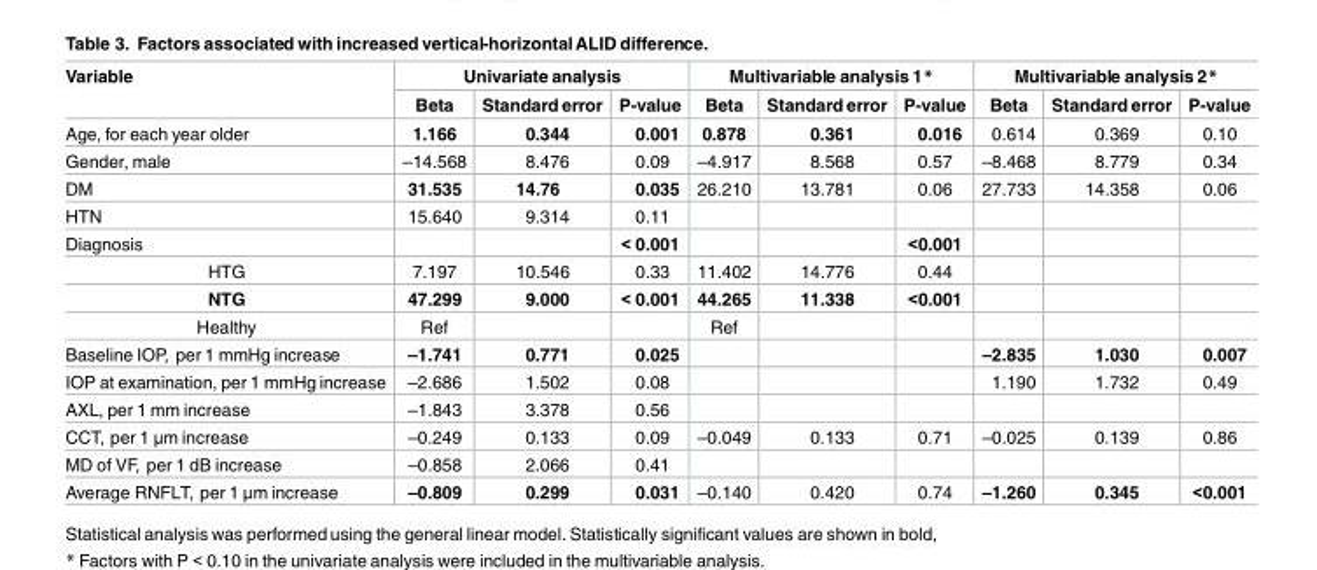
<table><thead><tr><td rowspan="2">Variable</td><td colspan="3">Univariate analysis</td><td colspan="3">Multivariable analysis 1*</td><td colspan="3">Multivariable analysis 2*</td></tr><tr><td>Beta</td><td>Standard error</td><td>P-value</td><td>Beta</td><td>Standard error</td><td>P-value</td><td>Beta</td><td>Standard error</td><td>P-value</td></tr></thead><tbody><tr><td>Age, for each year older</td><td>1.166</td><td>0.344</td><td>0.001</td><td>0.878</td><td>0.361</td><td>0.016</td><td>0.614</td><td>0.369</td><td>0.10</td></tr><tr><td>Gender, male</td><td>–14.568</td><td>8.476</td><td>0.09</td><td>–4.917</td><td>8.568</td><td>0.57</td><td>–8.468</td><td>8.779</td><td>0.34</td></tr><tr><td>DM</td><td>31.535</td><td>14.76</td><td>0.035</td><td>26.210</td><td>13.781</td><td>0.06</td><td>27.733</td><td>14.358</td><td>0.06</td></tr><tr><td>HTN</td><td>15.640</td><td>9.314</td><td>0.11</td><td></td><td></td><td></td><td></td><td></td><td></td></tr><tr><td>Diagnosis</td><td></td><td></td><td>&lt; 0.001</td><td></td><td></td><td>&lt;0.001</td><td></td><td></td><td></td></tr><tr><td>HTG</td><td>7.197</td><td>10.546</td><td>0.33</td><td>11.402</td><td>14.776</td><td>0.44</td><td></td><td></td><td></td></tr><tr><td>NTG</td><td>47.299</td><td>9.000</td><td>&lt; 0.001</td><td>44.265</td><td>11.338</td><td>&lt;0.001</td><td></td><td></td><td></td></tr><tr><td>Healthy</td><td>Ref</td><td></td><td></td><td>Ref</td><td></td><td></td><td></td><td></td><td></td></tr><tr><td>Baseline IOP, per 1 mmHg increase</td><td>–1.741</td><td>0.771</td><td>0.025</td><td></td><td></td><td></td><td>–2.835</td><td>1.030</td><td>0.007</td></tr><tr><td>IOP at examination, per 1 mmHg increase</td><td>–2.686</td><td>1.502</td><td>0.08</td><td></td><td></td><td></td><td>1.190</td><td>1.732</td><td>0.49</td></tr><tr><td>AXL, per 1 mm increase</td><td>–1.843</td><td>3.378</td><td>0.56</td><td></td><td></td><td></td><td></td><td></td><td></td></tr><tr><td>CCT, per 1 μm increase</td><td>–0.249</td><td>0.133</td><td>0.09</td><td>–0.049</td><td>0.133</td><td>0.71</td><td>–0.025</td><td>0.139</td><td>0.86</td></tr><tr><td>MD of VF, per 1 dB increase</td><td>–0.858</td><td>2.066</td><td>0.41</td><td></td><td></td><td></td><td></td><td></td><td></td></tr><tr><td>Average RNFLT, per 1 μm increase</td><td>–0.809</td><td>0.299</td><td>0.031</td><td>–0.140</td><td>0.420</td><td>0.74</td><td>–1.260</td><td>0.345</td><td>&lt;0.001</td></tr></tbody></table>